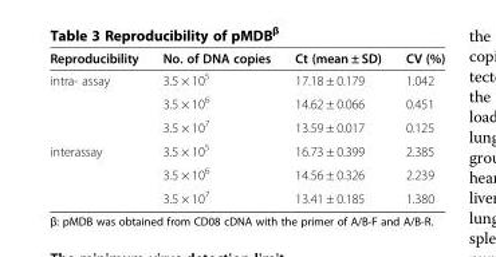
<table><thead><tr><td>Reproducibility</td><td>No. of DNA copies</td><td>Ct (mean ± SD)</td><td>CV (%)</td></tr></thead><tbody><tr><td rowspan="3">intra- assay</td><td>3.5 × 10<sup>5</sup></td><td>17.18 ± 0.179</td><td>1.042</td></tr><tr><td>3.5 × 10<sup>6</sup></td><td>14.62 ± 0.066</td><td>0.451</td></tr><tr><td>3.5 × 10<sup>7</sup></td><td>13.59 ± 0.017</td><td>0.125</td></tr><tr><td rowspan="3">interassay</td><td>3.5 × 10<sup>5</sup></td><td>16.73 ± 0.399</td><td>2.385</td></tr><tr><td>3.5 × 10<sup>6</sup></td><td>14.56 ± 0.326</td><td>2.239</td></tr><tr><td>3.5 × 10<sup>7</sup></td><td>13.41 ± 0.185</td><td>1.380</td></tr></tbody></table>